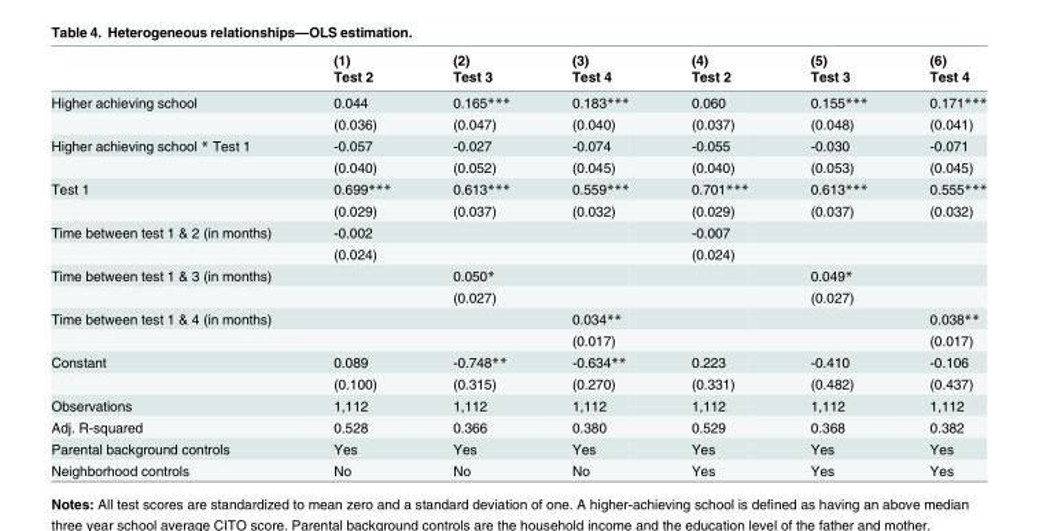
<table><thead><tr><td rowspan="2"></td><td rowspan="2">(1) Test 2</td><td rowspan="2">(2) Test 3</td><td rowspan="2">(3) Test 4</td><td rowspan="2">(4) Test 2</td><td rowspan="2">(5) Test 3</td><td rowspan="2">(6) Test 4</td></tr><tr></tr></thead><tbody><tr><td rowspan="2">Higher achieving school</td><td>0.044</td><td>0.165***</td><td>0.183***</td><td>0.060</td><td>0.155***</td><td>0.171***</td></tr><tr><td>(0.036)</td><td>(0.047)</td><td>(0.040)</td><td>(0.037)</td><td>(0.048)</td><td>(0.041)</td></tr><tr><td rowspan="2">Higher achieving school * Test 1</td><td>-0.057</td><td>-0.027</td><td>-0.074</td><td>-0.055</td><td>-0.030</td><td>-0.071</td></tr><tr><td>(0.040)</td><td>(0.052)</td><td>(0.045)</td><td>(0.040)</td><td>(0.053)</td><td>(0.045)</td></tr><tr><td rowspan="2">Test 1</td><td>0.699***</td><td>0.613***</td><td>0.559***</td><td>0.701***</td><td>0.613***</td><td>0.555***</td></tr><tr><td>(0.029)</td><td>(0.037)</td><td>(0.032)</td><td>(0.029)</td><td>(0.037)</td><td>(0.032)</td></tr><tr><td rowspan="2">Time between test 1 &amp; 2 (in months)</td><td>-0.002</td><td></td><td></td><td>-0.007</td><td></td><td></td></tr><tr><td>(0.024)</td><td></td><td></td><td>(0.024)</td><td></td><td></td></tr><tr><td rowspan="2">Time between test 1 &amp; 3 (in months)</td><td></td><td>0.050*</td><td></td><td></td><td>0.049*</td><td></td></tr><tr><td></td><td>(0.027)</td><td></td><td></td><td>(0.027)</td><td></td></tr><tr><td rowspan="2">Time between test 1 &amp; 4 (in months)</td><td></td><td></td><td>0.034**</td><td></td><td></td><td>0.038**</td></tr><tr><td></td><td></td><td>(0.017)</td><td></td><td></td><td>(0.017)</td></tr><tr><td rowspan="2">Constant</td><td>0.089</td><td>-0.748**</td><td>-0.634**</td><td>0.223</td><td>-0.410</td><td>-0.106</td></tr><tr><td>(0.100)</td><td>(0.315)</td><td>(0.270)</td><td>(0.331)</td><td>(0.482)</td><td>(0.437)</td></tr><tr><td>Observations</td><td>1,112</td><td>1,112</td><td>1,112</td><td>1,112</td><td>1,112</td><td>1,112</td></tr><tr><td>Adj. R-squared</td><td>0.528</td><td>0.366</td><td>0.380</td><td>0.529</td><td>0.368</td><td>0.382</td></tr><tr><td>Parental background controls</td><td>Yes</td><td>Yes</td><td>Yes</td><td>Yes</td><td>Yes</td><td>Yes</td></tr><tr><td>Neighborhood controls</td><td>No</td><td>No</td><td>No</td><td>Yes</td><td>Yes</td><td>Yes</td></tr></tbody></table>